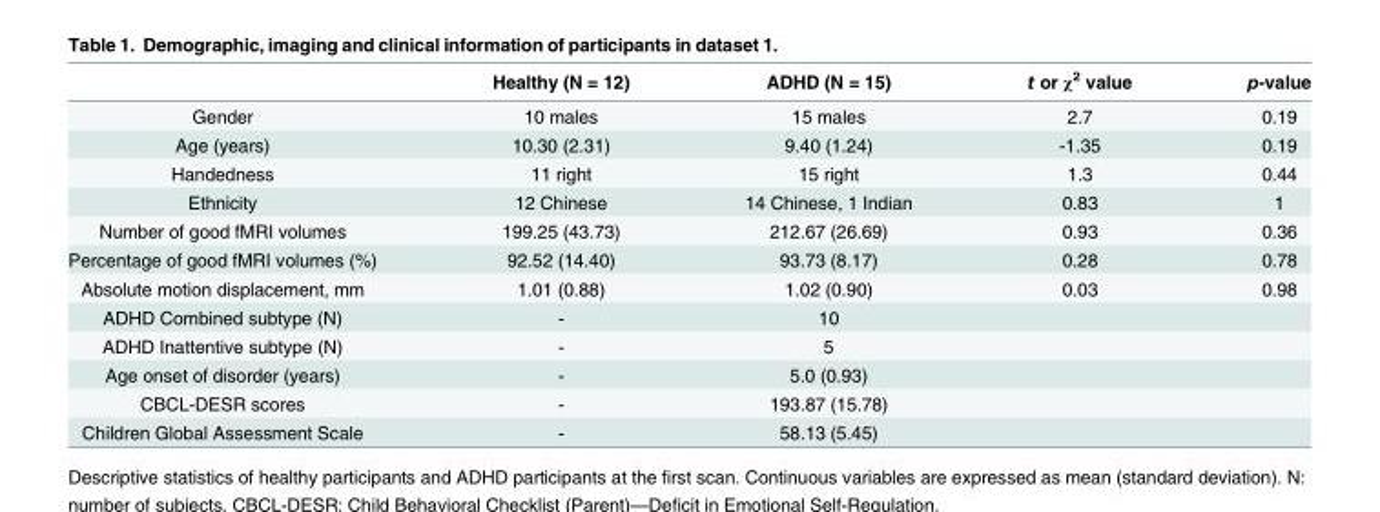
<table><thead><tr><td></td><td>Healthy (N = 12)</td><td>ADHD (N = 15)</td><td>t or χ<sup>2</sup> value</td><td>p-value</td></tr></thead><tbody><tr><td>Gender</td><td>10 males</td><td>15 males</td><td>2.7</td><td>0.19</td></tr><tr><td>Age (years)</td><td>10.30 (2.31)</td><td>9.40 (1.24)</td><td>-1.35</td><td>0.19</td></tr><tr><td>Handedness</td><td>11 right</td><td>15 right</td><td>1.3</td><td>0.44</td></tr><tr><td>Ethnicity</td><td>12 Chinese</td><td>14 Chinese, 1 Indian</td><td>0.83</td><td>1</td></tr><tr><td>Number of good fMRI volumes</td><td>199.25 (43.73)</td><td>212.67 (26.69)</td><td>0.93</td><td>0.36</td></tr><tr><td>Percentage of good fMRI volumes (%)</td><td>92.52 (14.40)</td><td>93.73 (8.17)</td><td>0.28</td><td>0.78</td></tr><tr><td>Absolute motion displacement, mm</td><td>1.01 (0.88)</td><td>1.02 (0.90)</td><td>0.03</td><td>0.98</td></tr><tr><td>ADHD Combined subtype (N)</td><td>-</td><td>10</td><td></td><td></td></tr><tr><td>ADHD Inattentive subtype (N)</td><td>-</td><td>5</td><td></td><td></td></tr><tr><td>Age onset of disorder (years)</td><td>-</td><td>5.0 (0.93)</td><td></td><td></td></tr><tr><td>CBCL-DESR scores</td><td>-</td><td>193.87 (15.78)</td><td></td><td></td></tr><tr><td>Children Global Assessment Scale</td><td>-</td><td>58.13 (5.45)</td><td></td><td></td></tr></tbody></table>